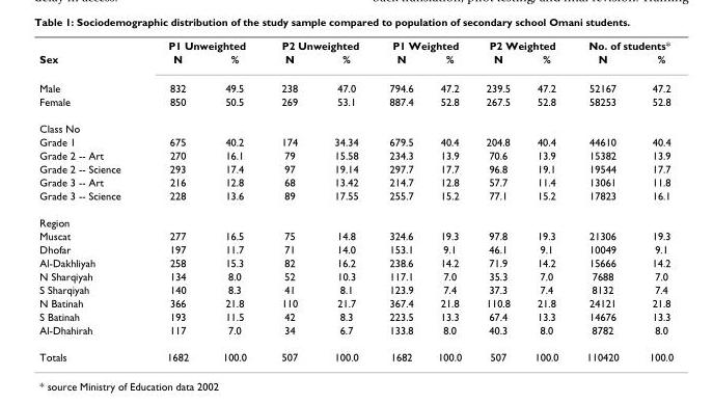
<table><thead><tr><td rowspan="2">Sex</td><td colspan="2">P1 Unweighted</td><td colspan="2">P2 Unweighted</td><td colspan="2">P1 Weighted</td><td colspan="2">P2 Weighted</td><td colspan="2">No. of students*</td></tr><tr><td>N</td><td>%</td><td>N</td><td>%</td><td>N</td><td>%</td><td>N</td><td>%</td><td>N</td><td>%</td></tr></thead><tbody><tr><td>Male</td><td>832</td><td>49.5</td><td>238</td><td>47.0</td><td>794.6</td><td>47.2</td><td>239.5</td><td>47.2</td><td>52167</td><td>47.2</td></tr><tr><td>Female</td><td>850</td><td>50.5</td><td>269</td><td>53.1</td><td>887.4</td><td>52.8</td><td>267.5</td><td>52.8</td><td>58253</td><td>52.8</td></tr><tr><td colspan="11">Class No</td></tr><tr><td>Grade 1</td><td>675</td><td>40.2</td><td>174</td><td>34.34</td><td>679.5</td><td>40.4</td><td>204.8</td><td>40.4</td><td>44610</td><td>40.4</td></tr><tr><td>Grade 2 -- Art</td><td>270</td><td>16.1</td><td>79</td><td>15.58</td><td>234.3</td><td>13.9</td><td>70.6</td><td>13.9</td><td>15382</td><td>13.9</td></tr><tr><td>Grade 2 -- Science</td><td>293</td><td>17.4</td><td>97</td><td>19.14</td><td>297.7</td><td>17.7</td><td>96.8</td><td>19.1</td><td>19544</td><td>17.7</td></tr><tr><td>Grade 3 -- Art</td><td>216</td><td>12.8</td><td>68</td><td>13.42</td><td>214.7</td><td>12.8</td><td>57.7</td><td>11.4</td><td>13061</td><td>11.8</td></tr><tr><td>Grade 3 -- Science</td><td>228</td><td>13.6</td><td>89</td><td>17.55</td><td>255.7</td><td>15.2</td><td>77.1</td><td>15.2</td><td>17823</td><td>16.1</td></tr><tr><td colspan="11">Region</td></tr><tr><td>Muscat</td><td>277</td><td>16.5</td><td>75</td><td>14.8</td><td>324.6</td><td>19.3</td><td>97.8</td><td>19.3</td><td>21306</td><td>19.3</td></tr><tr><td>Dhofar</td><td>197</td><td>11.7</td><td>71</td><td>14.0</td><td>153.1</td><td>9.1</td><td>46.1</td><td>9.1</td><td>10049</td><td>9.1</td></tr><tr><td>Al-Dakhliyah</td><td>258</td><td>15.3</td><td>82</td><td>16.2</td><td>238.6</td><td>14.2</td><td>71.9</td><td>14.2</td><td>15666</td><td>14.2</td></tr><tr><td>N Sharqiyah</td><td>134</td><td>8.0</td><td>52</td><td>10.3</td><td>117.1</td><td>7.0</td><td>35.3</td><td>7.0</td><td>7688</td><td>7.0</td></tr><tr><td>S Sharqiyah</td><td>140</td><td>8.3</td><td>41</td><td>8.1</td><td>123.9</td><td>7.4</td><td>37.3</td><td>7.4</td><td>8132</td><td>7.4</td></tr><tr><td>N Batinah</td><td>366</td><td>21.8</td><td>110</td><td>21.7</td><td>367.4</td><td>21.8</td><td>110.8</td><td>21.8</td><td>24121</td><td>21.8</td></tr><tr><td>S Batinah</td><td>193</td><td>11.5</td><td>42</td><td>8.3</td><td>223.5</td><td>13.3</td><td>67.4</td><td>13.3</td><td>14676</td><td>13.3</td></tr><tr><td>Al-Dhahirah</td><td>117</td><td>7.0</td><td>34</td><td>6.7</td><td>133.8</td><td>8.0</td><td>40.3</td><td>8.0</td><td>8782</td><td>8.0</td></tr><tr><td>Totals</td><td>1682</td><td>100.0</td><td>507</td><td>100.0</td><td>1682</td><td>100.0</td><td>507</td><td>100.0</td><td>110420</td><td>100.0</td></tr></tbody></table>